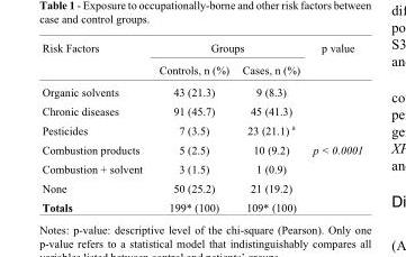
<table><thead><tr><td rowspan="2">Risk Factors</td><td colspan="2">Groups</td><td rowspan="2">p value</td></tr><tr><td>Controls, n (%)</td><td>Cases, n (%)</td></tr></thead><tbody><tr><td>Organic solvents</td><td>43 (21.3)</td><td>9 (8.3)</td><td></td></tr><tr><td>Chronic diseases</td><td>91 (45.7)</td><td>45 (41.3)</td><td></td></tr><tr><td>Pesticides</td><td>7 (3.5)</td><td>23 (21.1) a</td><td></td></tr><tr><td>Combustion products</td><td>5 (2.5)</td><td>10 (9.2)</td><td>p &lt; 0.0001</td></tr><tr><td>Combustion + solvent</td><td>3 (1.5)</td><td>1 (0.9)</td><td></td></tr><tr><td>None</td><td>50 (25.2)</td><td>21 (19.2)</td><td></td></tr><tr><td>Totals</td><td>199* (100)</td><td>109* (100)</td><td></td></tr></tbody></table>